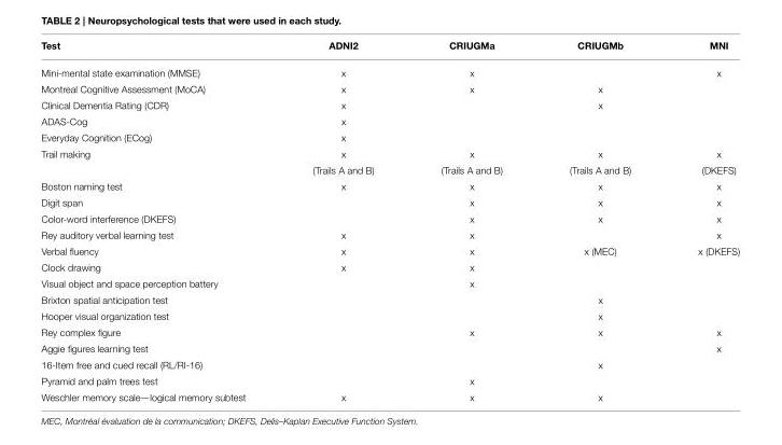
<table><thead><tr><td>Test</td><td>ADNI2</td><td>CRIUGMa</td><td>CRIUGMb</td><td>MNI</td></tr></thead><tbody><tr><td>Mini-mental state examination (MMSE)</td><td>x</td><td>x</td><td></td><td>x</td></tr><tr><td>Montreal Cognitive Assessment (MoCA)</td><td>x</td><td>x</td><td>x</td><td></td></tr><tr><td>Clinical Dementia Rating (CDR)</td><td>x</td><td></td><td>x</td><td></td></tr><tr><td>ADAS-Cog</td><td>x</td><td></td><td></td><td></td></tr><tr><td>Everyday Cognition (ECog)</td><td>x</td><td></td><td></td><td></td></tr><tr><td rowspan="2">Trail making</td><td>x</td><td>x</td><td>x</td><td>x</td></tr><tr><td>(Trails A and B)</td><td>(Trails A and B)</td><td>(Trails A and B)</td><td>(DKEFS)</td></tr><tr><td>Boston naming test</td><td>x</td><td>x</td><td>x</td><td>x</td></tr><tr><td>Digit span</td><td></td><td>x</td><td>x</td><td>x</td></tr><tr><td>Color-word interference (DKEFS)</td><td></td><td>x</td><td>x</td><td>x</td></tr><tr><td>Rey auditory verbal learning test</td><td>x</td><td>x</td><td></td><td>x</td></tr><tr><td>Verbal fluency</td><td>x</td><td>x</td><td>x (MEC)</td><td>x (DKEFS)</td></tr><tr><td>Clock drawing</td><td>x</td><td>x</td><td></td><td></td></tr><tr><td>Visual object and space perception battery</td><td></td><td>x</td><td></td><td></td></tr><tr><td>Brixton spatial anticipation test</td><td></td><td></td><td>x</td><td></td></tr><tr><td>Hooper visual organization test</td><td></td><td></td><td>x</td><td></td></tr><tr><td>Rey complex figure</td><td></td><td>x</td><td>x</td><td>x</td></tr><tr><td>Aggie figures learning test</td><td></td><td></td><td></td><td>x</td></tr><tr><td>16-Item free and cued recall (RL/RI-16)</td><td></td><td></td><td>x</td><td></td></tr><tr><td>Pyramid and palm trees test</td><td></td><td>x</td><td></td><td></td></tr><tr><td>Weschler memory scale—logical memory subtest</td><td>x</td><td>x</td><td>x</td><td></td></tr></tbody></table>